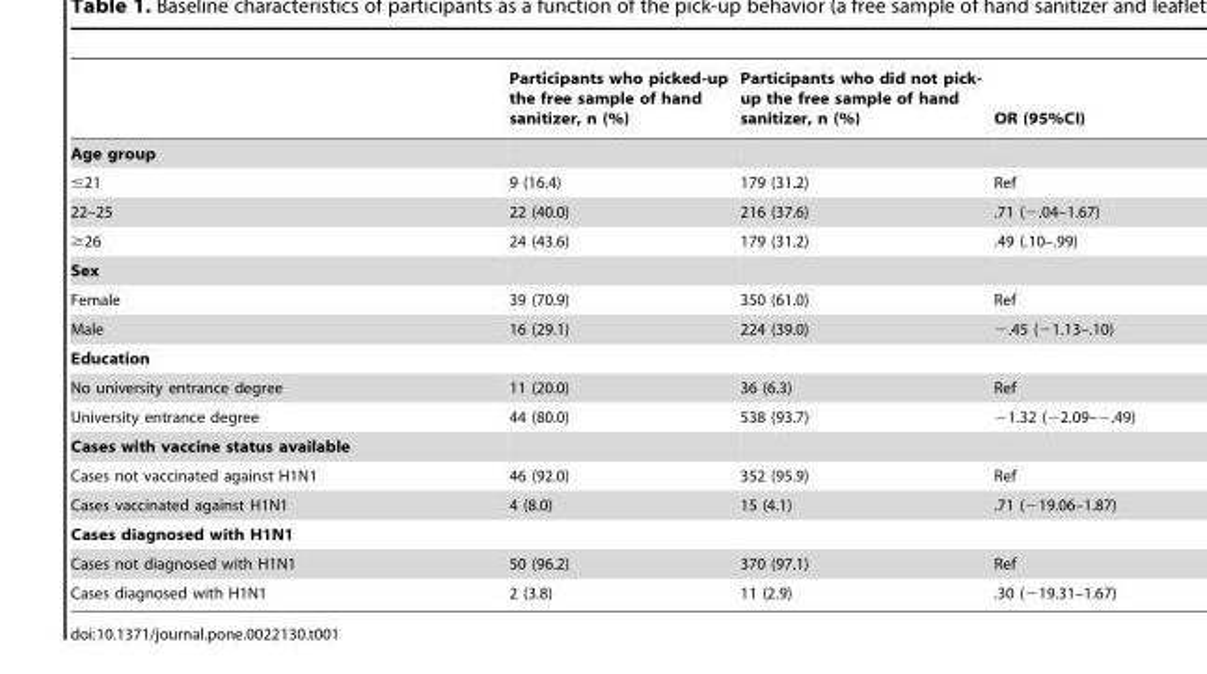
<table><thead><tr><td></td><td>Participants who picked-up the free sample of hand sanitizer, n (%)</td><td>Participants who did not pick- up the free sample of hand sanitizer, n (%)</td><td>OR (95%CI)</td></tr></thead><tbody><tr><td colspan="4">Age group</td></tr><tr><td>≤21</td><td>9 (16.4)</td><td>179 (31.2)</td><td>Ref</td></tr><tr><td>22–25</td><td>22 (40.0)</td><td>216 (37.6)</td><td>.71 (−.04–1.67)</td></tr><tr><td>≥26</td><td>24 (43.6)</td><td>179 (31.2)</td><td>.49 (.10–.99)</td></tr><tr><td colspan="4">Sex</td></tr><tr><td>Female</td><td>39 (70.9)</td><td>350 (61.0)</td><td>Ref</td></tr><tr><td>Male</td><td>16 (29.1)</td><td>224 (39.0)</td><td>−.45 (−1.13–.10)</td></tr><tr><td colspan="4">Education</td></tr><tr><td>No university entrance degree</td><td>11 (20.0)</td><td>36 (6.3)</td><td>Ref</td></tr><tr><td>University entrance degree</td><td>44 (80.0)</td><td>538 (93.7)</td><td>−1.32 (−2.09–−.49)</td></tr><tr><td colspan="4">Cases with vaccine status available</td></tr><tr><td>Cases not vaccinated against H1N1</td><td>46 (92.0)</td><td>352 (95.9)</td><td>Ref</td></tr><tr><td>Cases vaccinated against H1N1</td><td>4 (8.0)</td><td>15 (4.1)</td><td>.71 (−19.06–1.87)</td></tr><tr><td colspan="4">Cases diagnosed with H1N1</td></tr><tr><td>Cases not diagnosed with H1N1</td><td>50 (96.2)</td><td>370 (97.1)</td><td>Ref</td></tr><tr><td>Cases diagnosed with H1N1</td><td>2 (3.8)</td><td>11 (2.9)</td><td>.30 (−19.31–1.67)</td></tr></tbody></table>